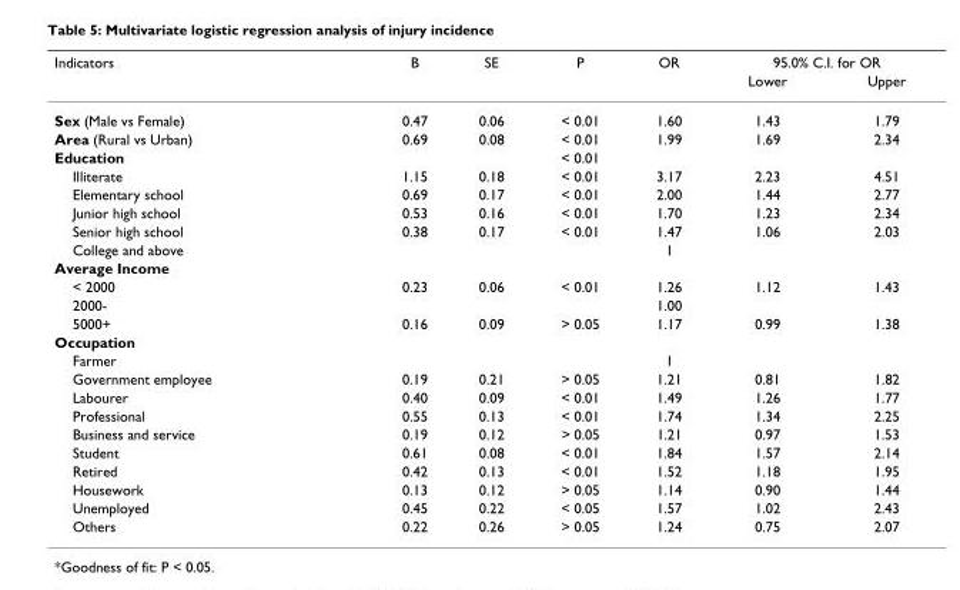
<table><thead><tr><td rowspan="2">Indicators</td><td rowspan="2">B</td><td rowspan="2">SE</td><td rowspan="2">P</td><td rowspan="2">OR</td><td colspan="2">95.0% C.I. for OR</td></tr><tr><td>Lower</td><td>Upper</td></tr></thead><tbody><tr><td>Sex (Male vs Female)</td><td>0.47</td><td>0.06</td><td>&lt; 0.01</td><td>1.60</td><td>1.43</td><td>1.79</td></tr><tr><td>Area (Rural vs Urban)</td><td>0.69</td><td>0.08</td><td>&lt; 0.01</td><td>1.99</td><td>1.69</td><td>2.34</td></tr><tr><td>Education</td><td></td><td></td><td>&lt; 0.01</td><td></td><td></td><td></td></tr><tr><td>Illiterate</td><td>1.15</td><td>0.18</td><td>&lt; 0.01</td><td>3.17</td><td>2.23</td><td>4.51</td></tr><tr><td>Elementary school</td><td>0.69</td><td>0.17</td><td>&lt; 0.01</td><td>2.00</td><td>1.44</td><td>2.77</td></tr><tr><td>Junior high school</td><td>0.53</td><td>0.16</td><td>&lt; 0.01</td><td>1.70</td><td>1.23</td><td>2.34</td></tr><tr><td>Senior high school</td><td>0.38</td><td>0.17</td><td>&lt; 0.01</td><td>1.47</td><td>1.06</td><td>2.03</td></tr><tr><td>College and above</td><td></td><td></td><td></td><td>1</td><td></td><td></td></tr><tr><td colspan="7">Average Income</td></tr><tr><td>&lt; 2000</td><td>0.23</td><td>0.06</td><td>&lt; 0.01</td><td>1.26</td><td>1.12</td><td>1.43</td></tr><tr><td>2000-</td><td></td><td></td><td></td><td>1.00</td><td></td><td></td></tr><tr><td>5000+</td><td>0.16</td><td>0.09</td><td>&gt; 0.05</td><td>1.17</td><td>0.99</td><td>1.38</td></tr><tr><td colspan="7">Occupation</td></tr><tr><td>Farmer</td><td></td><td></td><td></td><td>1</td><td></td><td></td></tr><tr><td>Government employee</td><td>0.19</td><td>0.21</td><td>&gt; 0.05</td><td>1.21</td><td>0.81</td><td>1.82</td></tr><tr><td>Labourer</td><td>0.40</td><td>0.09</td><td>&lt; 0.01</td><td>1.49</td><td>1.26</td><td>1.77</td></tr><tr><td>Professional</td><td>0.55</td><td>0.13</td><td>&lt; 0.01</td><td>1.74</td><td>1.34</td><td>2.25</td></tr><tr><td>Business and service</td><td>0.19</td><td>0.12</td><td>&gt; 0.05</td><td>1.21</td><td>0.97</td><td>1.53</td></tr><tr><td>Student</td><td>0.61</td><td>0.08</td><td>&lt; 0.01</td><td>1.84</td><td>1.57</td><td>2.14</td></tr><tr><td>Retired</td><td>0.42</td><td>0.13</td><td>&lt; 0.01</td><td>1.52</td><td>1.18</td><td>1.95</td></tr><tr><td>Housework</td><td>0.13</td><td>0.12</td><td>&gt; 0.05</td><td>1.14</td><td>0.90</td><td>1.44</td></tr><tr><td>Unemployed</td><td>0.45</td><td>0.22</td><td>&lt; 0.05</td><td>1.57</td><td>1.02</td><td>2.43</td></tr><tr><td>Others</td><td>0.22</td><td>0.26</td><td>&gt; 0.05</td><td>1.24</td><td>0.75</td><td>2.07</td></tr></tbody></table>